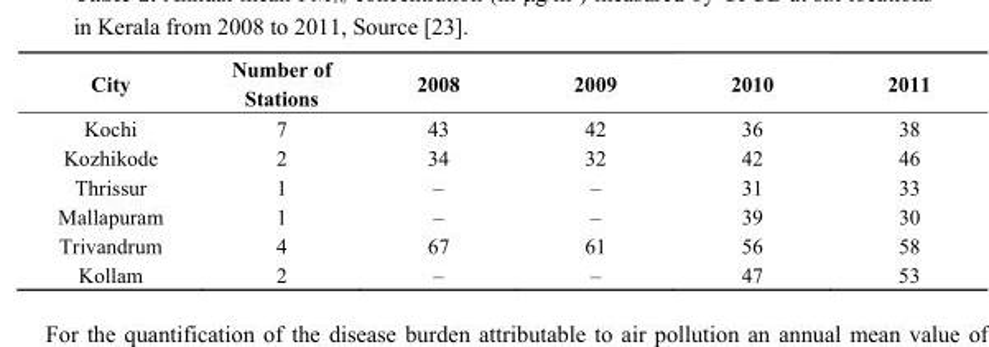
<table><thead><tr><td>City</td><td>Number of Stations</td><td>2008</td><td>2009</td><td>2010</td><td>2011</td></tr></thead><tbody><tr><td>Kochi</td><td>7</td><td>43</td><td>42</td><td>36</td><td>38</td></tr><tr><td>Kozhikode</td><td>2</td><td>34</td><td>32</td><td>42</td><td>46</td></tr><tr><td>Thrissur</td><td>1</td><td>–</td><td>–</td><td>31</td><td>33</td></tr><tr><td>Mallapuram</td><td>1</td><td>–</td><td>–</td><td>39</td><td>30</td></tr><tr><td>Trivandrum</td><td>4</td><td>67</td><td>61</td><td>56</td><td>58</td></tr><tr><td>Kollam</td><td>2</td><td>–</td><td>–</td><td>47</td><td>53</td></tr></tbody></table>